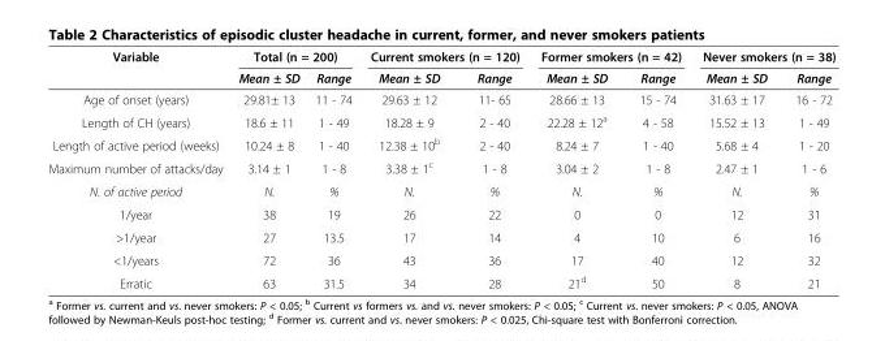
<table><thead><tr><td rowspan="2">Variable</td><td colspan="2">Total (n = 200)</td><td colspan="2">Current smokers (n = 120)</td><td colspan="2">Former smokers (n = 42)</td><td colspan="2">Never smokers (n = 38)</td></tr><tr><td>Mean ± SD</td><td>Range</td><td>Mean ± SD</td><td>Range</td><td>Mean ± SD</td><td>Range</td><td>Mean ± SD</td><td>Range</td></tr></thead><tbody><tr><td>Age of onset (years)</td><td>29.81± 13</td><td>11 - 74</td><td>29.63 ± 12</td><td>11- 65</td><td>28.66 ± 13</td><td>15 - 74</td><td>31.63 ± 17</td><td>16 - 72</td></tr><tr><td>Length of CH (years)</td><td>18.6 ± 11</td><td>1 - 49</td><td>18.28 ± 9</td><td>2 - 40</td><td>22.28 ± 12<sup>a</sup></td><td>4 - 58</td><td>15.52 ± 13</td><td>1 - 49</td></tr><tr><td>Length of active period (weeks)</td><td>10.24 ± 8</td><td>1 - 40</td><td>12.38 ± 10<sup>b</sup></td><td>2 - 40</td><td>8.24 ± 7</td><td>1 - 40</td><td>5.68 ± 4</td><td>1 - 20</td></tr><tr><td>Maximum number of attacks/day</td><td>3.14 ± 1</td><td>1 - 8</td><td>3.38 ± 1<sup>c</sup></td><td>1 - 8</td><td>3.04 ± 2</td><td>1 - 8</td><td>2.47 ± 1</td><td>1 - 6</td></tr><tr><td>N. of active period</td><td>N.</td><td>%</td><td>N.</td><td>%</td><td>N.</td><td>%</td><td>N.</td><td>%</td></tr><tr><td>1/year</td><td>38</td><td>19</td><td>26</td><td>22</td><td>0</td><td>0</td><td>12</td><td>31</td></tr><tr><td>&gt;1/year</td><td>27</td><td>13.5</td><td>17</td><td>14</td><td>4</td><td>10</td><td>6</td><td>16</td></tr><tr><td>&lt;1/years</td><td>72</td><td>36</td><td>43</td><td>36</td><td>17</td><td>40</td><td>12</td><td>32</td></tr><tr><td>Erratic</td><td>63</td><td>31.5</td><td>34</td><td>28</td><td>21<sup>d</sup></td><td>50</td><td>8</td><td>21</td></tr></tbody></table>